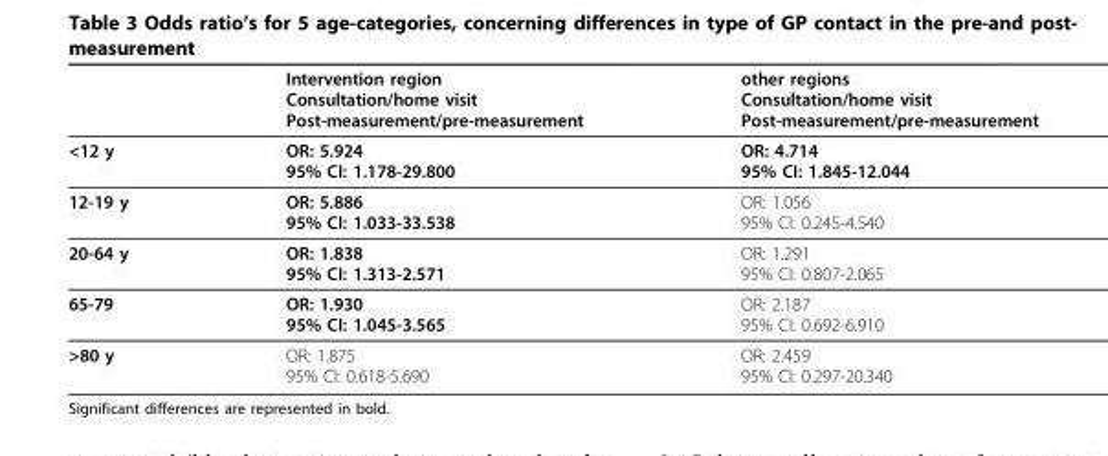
<table><thead><tr><td></td><td>Intervention region Consultation/home visit Post-measurement/pre-measurement</td><td>other regions Consultation/home visit Post-measurement/pre-measurement</td></tr></thead><tbody><tr><td>&lt;12 y</td><td>OR: 5.924 95% CI: 1.178-29.800</td><td>OR: 4.714 95% CI: 1.845-12.044</td></tr><tr><td>12-19 y</td><td>OR: 5.886 95% CI: 1.033-33.538</td><td>OR: 1.056 95% CI: 0.245-4.540</td></tr><tr><td>20-64 y</td><td>OR: 1.838 95% CI: 1.313-2.571</td><td>OR: 1.291 95% CI: 0.807-2.065</td></tr><tr><td>65-79</td><td>OR: 1.930 95% CI: 1.045-3.565</td><td>OR: 2.187 95% CI: 0.692-6.910</td></tr><tr><td>&gt;80 y</td><td>OR: 1.875 95% CI: 0.618-5.690</td><td>OR: 2.459 95% CI: 0.297-20.340</td></tr></tbody></table>